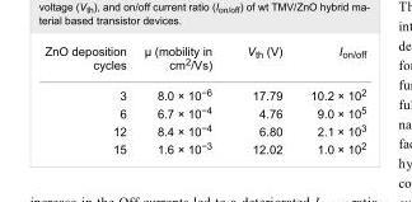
<table><tbody><tr><td>ZnO deposition cycles</td><td>µ (mobility in cm<sup>2</sup>/Vs)</td><td>V<sub>th</sub> (V)</td><td>I<sub>on/off</sub></td></tr><tr><td>3</td><td>8.0 × 10<sup>−6</sup></td><td>17.79</td><td>10.2 × 10<sup>2</sup></td></tr><tr><td>6</td><td>6.7 × 10<sup>−4</sup></td><td>4.76</td><td>9.0 × 10<sup>5</sup></td></tr><tr><td>12</td><td>8.4 × 10<sup>−4</sup></td><td>6.80</td><td>2.1 × 10<sup>3</sup></td></tr><tr><td>15</td><td>1.6 × 10<sup>−3</sup></td><td>12.02</td><td>1.0 × 10<sup>2</sup></td></tr></tbody></table>